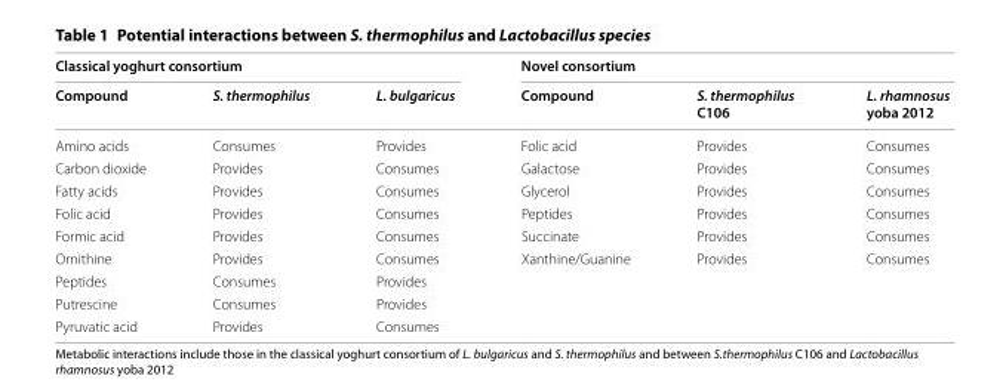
<table><thead><tr><td colspan="3">Classical yoghurt consortium</td><td colspan="3">Novel consortium</td></tr><tr><td>Compound</td><td>S. thermophilus</td><td>L. bulgaricus</td><td>Compound</td><td>S. thermophilus C106</td><td>L. rhamnosus yoba 2012</td></tr></thead><tbody><tr><td>Amino acids</td><td>Consumes</td><td>Provides</td><td>Folic acid</td><td>Provides</td><td>Consumes</td></tr><tr><td>Carbon dioxide</td><td>Provides</td><td>Consumes</td><td>Galactose</td><td>Provides</td><td>Consumes</td></tr><tr><td>Fatty acids</td><td>Provides</td><td>Consumes</td><td>Glycerol</td><td>Provides</td><td>Consumes</td></tr><tr><td>Folic acid</td><td>Provides</td><td>Consumes</td><td>Peptides</td><td>Provides</td><td>Consumes</td></tr><tr><td>Formic acid</td><td>Provides</td><td>Consumes</td><td>Succinate</td><td>Provides</td><td>Consumes</td></tr><tr><td>Ornithine</td><td>Provides</td><td>Consumes</td><td>Xanthine/Guanine</td><td>Provides</td><td>Consumes</td></tr><tr><td>Peptides</td><td>Consumes</td><td>Provides</td><td></td><td></td><td></td></tr><tr><td>Putrescine</td><td>Consumes</td><td>Provides</td><td></td><td></td><td></td></tr><tr><td>Pyruvatic acid</td><td>Provides</td><td>Consumes</td><td></td><td></td><td></td></tr></tbody></table>